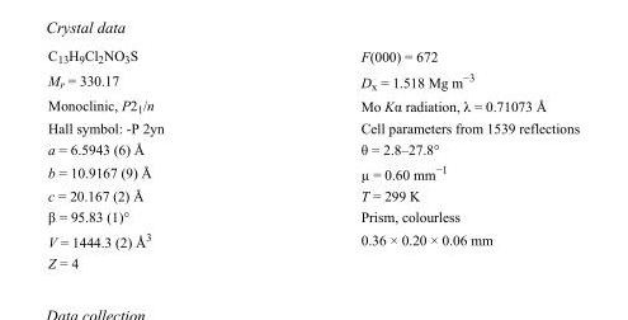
<table><tbody><tr><td>C<sub>13</sub>H<sub>9</sub>Cl<sub>2</sub>NO<sub>3</sub>S</td><td>F(000) = 672</td></tr><tr><td>M<sub>r</sub> = 330.17</td><td>D<sub>x</sub> = 1.518 Mg m<sup>−3</sup></td></tr><tr><td>Monoclinic, P2<sub>1</sub>/n</td><td>Mo Kα radiation, λ = 0.71073 Å</td></tr><tr><td>Hall symbol: -P 2yn</td><td>Cell parameters from 1539 reflections</td></tr><tr><td>a = 6.5943 (6) Å</td><td>θ = 2.8–27.8°</td></tr><tr><td>b = 10.9167 (9) Å</td><td>µ = 0.60 mm<sup>−1</sup></td></tr><tr><td>c = 20.167 (2) Å</td><td>T = 299 K</td></tr><tr><td>β = 95.83 (1)°</td><td>Prism, colourless</td></tr><tr><td>V = 1444.3 (2) Å<sup>3</sup></td><td>0.36 × 0.20 × 0.06 mm</td></tr><tr><td>Z = 4</td><td></td></tr></tbody></table>